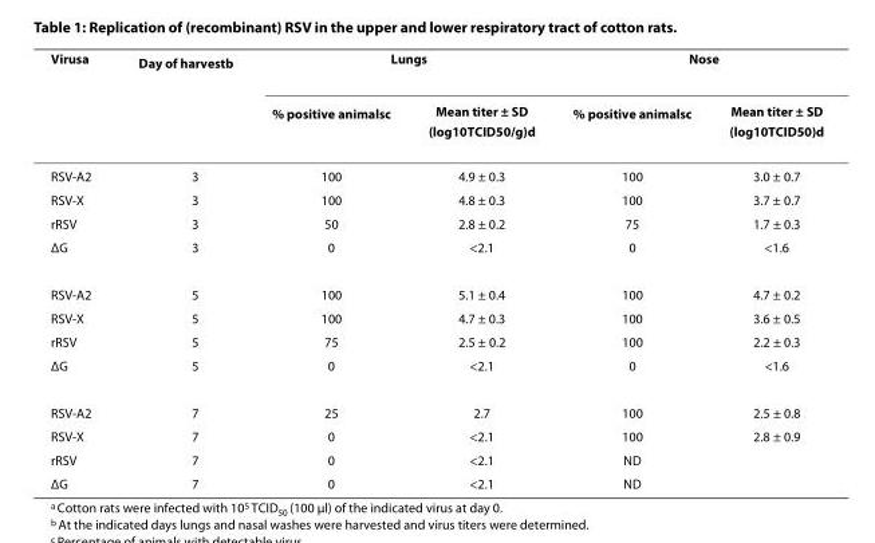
<table><thead><tr><td rowspan="2">Virus<sup>a</sup></td><td rowspan="2">Day of harvest<sup>b</sup></td><td colspan="2">Lungs</td><td colspan="2">Nose</td></tr><tr><td>% positive animals<sup>c</sup></td><td>Mean titer ± SD (log<sub>10</sub>TCID<sub>50</sub>/g)<sup>d</sup></td><td>% positive animals<sup>c</sup></td><td>Mean titer ± SD (log<sub>10</sub>TCID<sub>50</sub>)<sup>d</sup></td></tr></thead><tbody><tr><td>RSV-A2</td><td>3</td><td>100</td><td>4.9 ± 0.3</td><td>100</td><td>3.0 ± 0.7</td></tr><tr><td>RSV-X</td><td>3</td><td>100</td><td>4.8 ± 0.3</td><td>100</td><td>3.7 ± 0.7</td></tr><tr><td>rRSV</td><td>3</td><td>50</td><td>2.8 ± 0.2</td><td>75</td><td>1.7 ± 0.3</td></tr><tr><td>ΔG</td><td>3</td><td>0</td><td>&lt;2.1</td><td>0</td><td>&lt;1.6</td></tr><tr><td>RSV-A2</td><td>5</td><td>100</td><td>5.1 ± 0.4</td><td>100</td><td>4.7 ± 0.2</td></tr><tr><td>RSV-X</td><td>5</td><td>100</td><td>4.7 ± 0.3</td><td>100</td><td>3.6 ± 0.5</td></tr><tr><td>rRSV</td><td>5</td><td>75</td><td>2.5 ± 0.2</td><td>100</td><td>2.2 ± 0.3</td></tr><tr><td>ΔG</td><td>5</td><td>0</td><td>&lt;2.1</td><td>0</td><td>&lt;1.6</td></tr><tr><td>RSV-A2</td><td>7</td><td>25</td><td>2.7</td><td>100</td><td>2.5 ± 0.8</td></tr><tr><td>RSV-X</td><td>7</td><td>0</td><td>&lt;2.1</td><td>100</td><td>2.8 ± 0.9</td></tr><tr><td>rRSV</td><td>7</td><td>0</td><td>&lt;2.1</td><td>ND</td><td></td></tr><tr><td>ΔG</td><td>7</td><td>0</td><td>&lt;2.1</td><td>ND</td><td></td></tr></tbody></table>